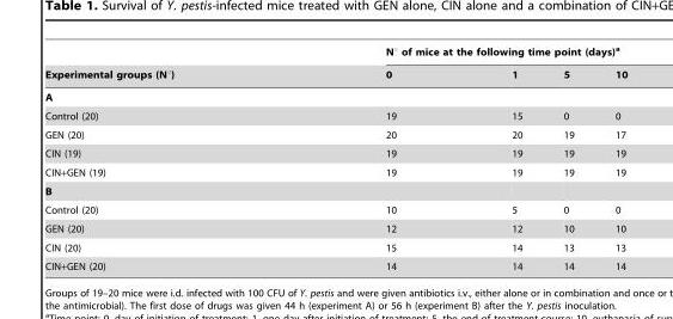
<table><thead><tr><td rowspan="2">Experimental groups (N°)</td><td colspan="4">N° of mice at the following time point (days)<sup>a</sup></td></tr><tr><td>0</td><td>1</td><td>5</td><td>10</td></tr></thead><tbody><tr><td colspan="5">A</td></tr><tr><td>Control (20)</td><td>19</td><td>15</td><td>0</td><td>0</td></tr><tr><td>GEN (20)</td><td>20</td><td>20</td><td>19</td><td>17</td></tr><tr><td>CIN (19)</td><td>19</td><td>19</td><td>19</td><td>19</td></tr><tr><td>CIN+GEN (19)</td><td>19</td><td>19</td><td>19</td><td>19</td></tr><tr><td colspan="5">B</td></tr><tr><td>Control (20)</td><td>10</td><td>5</td><td>0</td><td>0</td></tr><tr><td>GEN (20)</td><td>12</td><td>12</td><td>10</td><td>10</td></tr><tr><td>CIN (20)</td><td>15</td><td>14</td><td>13</td><td>13</td></tr><tr><td>CIN+GEN (20)</td><td>14</td><td>14</td><td>14</td><td>14</td></tr></tbody></table>